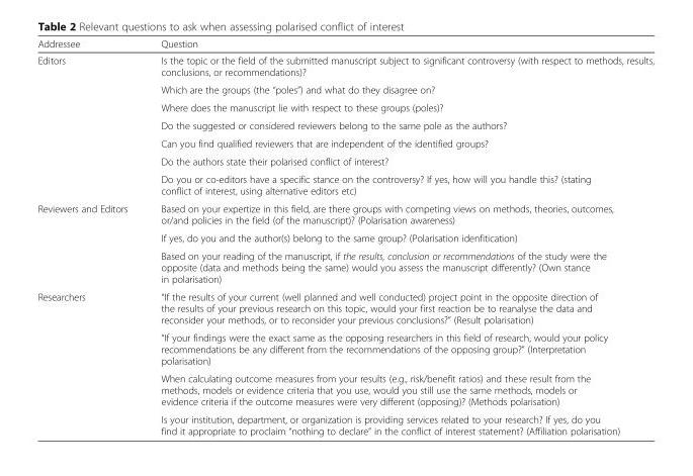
<table><thead><tr><td>Addressee</td><td>Question</td></tr></thead><tbody><tr><td rowspan="7">Editors</td><td>Is the topic or the field of the submitted manuscript subject to significant controversy (with respect to methods, results, conclusions, or recommendations)?</td></tr><tr><td>Which are the groups (the “poles”) and what do they disagree on?</td></tr><tr><td>Where does the manuscript lie with respect to these groups (poles)?</td></tr><tr><td>Do the suggested or considered reviewers belong to the same pole as the authors?</td></tr><tr><td>Can you find qualified reviewers that are independent of the identified groups?</td></tr><tr><td>Do the authors state their polarised conflict of interest?</td></tr><tr><td>Do you or co-editors have a specific stance on the controversy? If yes, how will you handle this? (stating conflict of interest, using alternative editors etc)</td></tr><tr><td rowspan="3">Reviewers and Editors</td><td>Based on your expertize in this field, are there groups with competing views on methods, theories, outcomes, or/and policies in the field (of the manuscript)? (Polarisation awareness)</td></tr><tr><td>If yes, do you and the author(s) belong to the same group? (Polarisation idenfitication)</td></tr><tr><td>Based on your reading of the manuscript, if the results, conclusion or recommendations of the study were the opposite (data and methods being the same) would you assess the manuscript differently? (Own stance in polarisation)</td></tr><tr><td rowspan="4">Researchers</td><td>“If the results of your current (well planned and well conducted) project point in the opposite direction of the results of your previous research on this topic, would your first reaction be to reanalyse the data and reconsider your methods, or to reconsider your previous conclusions?” (Result polarisation)</td></tr><tr><td>“If your findings were the exact same as the opposing researchers in this field of research, would your policy recommendations be any different from the recommendations of the opposing group?” (Interpretation polarisation)</td></tr><tr><td>When calculating outcome measures from your results (e.g., risk/benefit ratios) and these result from the methods, models or evidence criteria that you use, would you still use the same methods, models or evidence criteria if the outcome measures were very different (opposing)? (Methods polarisation)</td></tr><tr><td>Is your institution, department, or organization is providing services related to your research? If yes, do you find it appropriate to proclaim “nothing to declare” in the conflict of interest statement? (Affiliation polarisation)</td></tr></tbody></table>